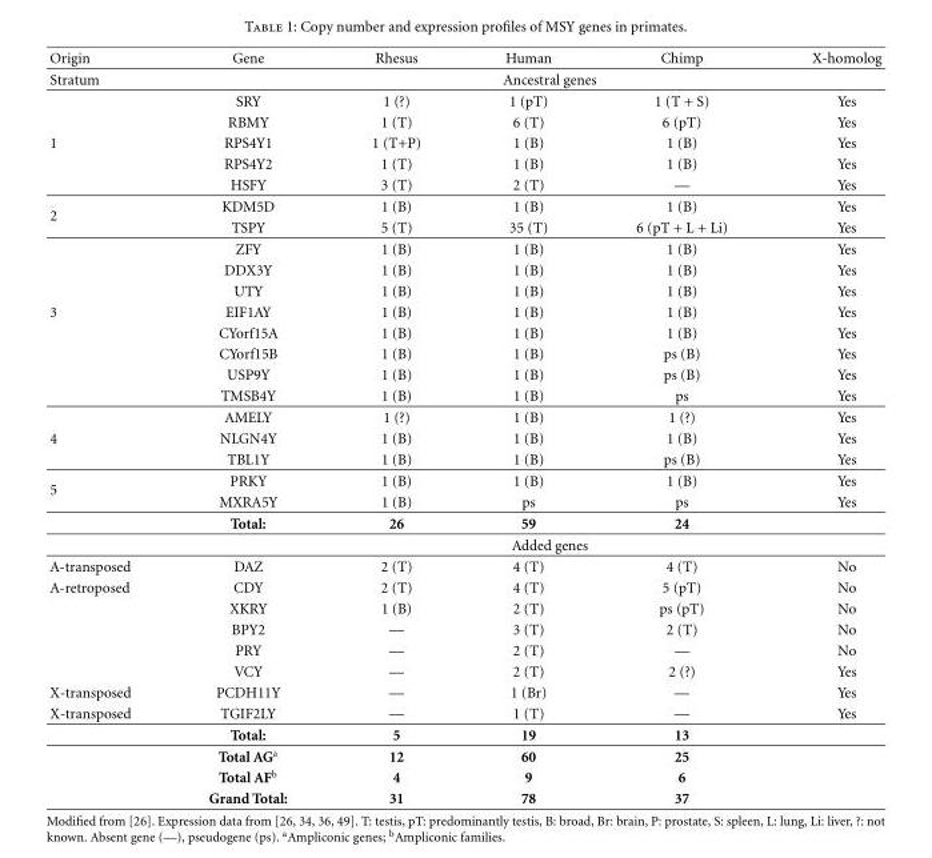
<table><thead><tr><td>Origin</td><td>Gene</td><td>Rhesus</td><td>Human</td><td>Chimp</td><td>X-homolog</td></tr></thead><tbody><tr><td rowspan="3">Stratum</td><td></td><td colspan="3">Ancestral genes</td><td></td></tr><tr><td>SRY</td><td>1 (?)</td><td>1 (pT)</td><td>1 (T + S)</td><td>Yes</td></tr><tr><td>RBMY</td><td>1 (T)</td><td>6 (T)</td><td>6 (pT)</td><td>Yes</td></tr><tr><td rowspan="3">1</td><td>RPS4Y1</td><td>1 (T+P)</td><td>1 (B)</td><td>1 (B)</td><td>Yes</td></tr><tr><td>RPS4Y2</td><td>1 (T)</td><td>1 (B)</td><td>1 (B)</td><td>Yes</td></tr><tr><td>HSFY</td><td>3 (T)</td><td>2 (T)</td><td>—</td><td>Yes</td></tr><tr><td rowspan="5">2</td><td>KDM5D</td><td>1 (B)</td><td>1 (B)</td><td>1 (B)</td><td>Yes</td></tr><tr><td>TSPY</td><td>5 (T)</td><td>35 (T)</td><td>6 (pT + L + Li)</td><td>Yes</td></tr><tr><td>ZFY</td><td>1 (B)</td><td>1 (B)</td><td>1 (B)</td><td>Yes</td></tr><tr><td>DDX3Y</td><td>1 (B)</td><td>1 (B)</td><td>1 (B)</td><td>Yes</td></tr><tr><td>UTY</td><td>1 (B)</td><td>1 (B)</td><td>1 (B)</td><td>Yes</td></tr><tr><td rowspan="6">3</td><td>EIF1AY</td><td>1 (B)</td><td>1 (B)</td><td>1 (B)</td><td>Yes</td></tr><tr><td>CYorf15A</td><td>1 (B)</td><td>1 (B)</td><td>1 (B)</td><td>Yes</td></tr><tr><td>CYorf15B</td><td>1 (B)</td><td>1 (B)</td><td>ps (B)</td><td>Yes</td></tr><tr><td>USP9Y</td><td>1 (B)</td><td>1 (B)</td><td>ps (B)</td><td>Yes</td></tr><tr><td>TMSB4Y</td><td>1 (B)</td><td>1 (B)</td><td>ps</td><td>Yes</td></tr><tr><td>AMELY</td><td>1 (?)</td><td>1 (B)</td><td>1 (?)</td><td>Yes</td></tr><tr><td rowspan="2">4</td><td>NLGN4Y</td><td>1 (B)</td><td>1 (B)</td><td>1 (B)</td><td>Yes</td></tr><tr><td>TBL1Y</td><td>1 (B)</td><td>1 (B)</td><td>ps (B)</td><td>Yes</td></tr><tr><td rowspan="4">5</td><td>PRKY</td><td>1 (B)</td><td>1 (B)</td><td>1 (B)</td><td>Yes</td></tr><tr><td>MXRA5Y</td><td>1 (B)</td><td>ps</td><td>ps</td><td>Yes</td></tr><tr><td>Total:</td><td>26</td><td>59</td><td>24</td><td></td></tr><tr><td></td><td colspan="3">Added genes</td><td></td></tr><tr><td>A-transposed</td><td>DAZ</td><td>2 (T)</td><td>4 (T)</td><td>4 (T)</td><td>No</td></tr><tr><td rowspan="5">A-retroposed</td><td>CDY</td><td>2 (T)</td><td>4 (T)</td><td>5 (pT)</td><td>No</td></tr><tr><td>XKRY</td><td>1 (B)</td><td>2 (T)</td><td>ps (pT)</td><td>No</td></tr><tr><td>BPY2</td><td>—</td><td>3 (T)</td><td>2 (T)</td><td>No</td></tr><tr><td>PRY</td><td>—</td><td>2 (T)</td><td>—</td><td>No</td></tr><tr><td>VCY</td><td>—</td><td>2 (T)</td><td>2 (?)</td><td>Yes</td></tr><tr><td>X-transposed</td><td>PCDH11Y</td><td>—</td><td>1 (Br)</td><td>—</td><td>Yes</td></tr><tr><td rowspan="5">X-transposed</td><td>TGIF2LY</td><td>—</td><td>1 (T)</td><td>—</td><td>Yes</td></tr><tr><td>Total:</td><td>5</td><td>19</td><td>13</td><td></td></tr><tr><td>Total AG<sup>a</sup></td><td>12</td><td>60</td><td>25</td><td></td></tr><tr><td>Total AF<sup>b</sup></td><td>4</td><td>9</td><td>6</td><td></td></tr><tr><td>Grand Total:</td><td>31</td><td>78</td><td>37</td><td></td></tr></tbody></table>